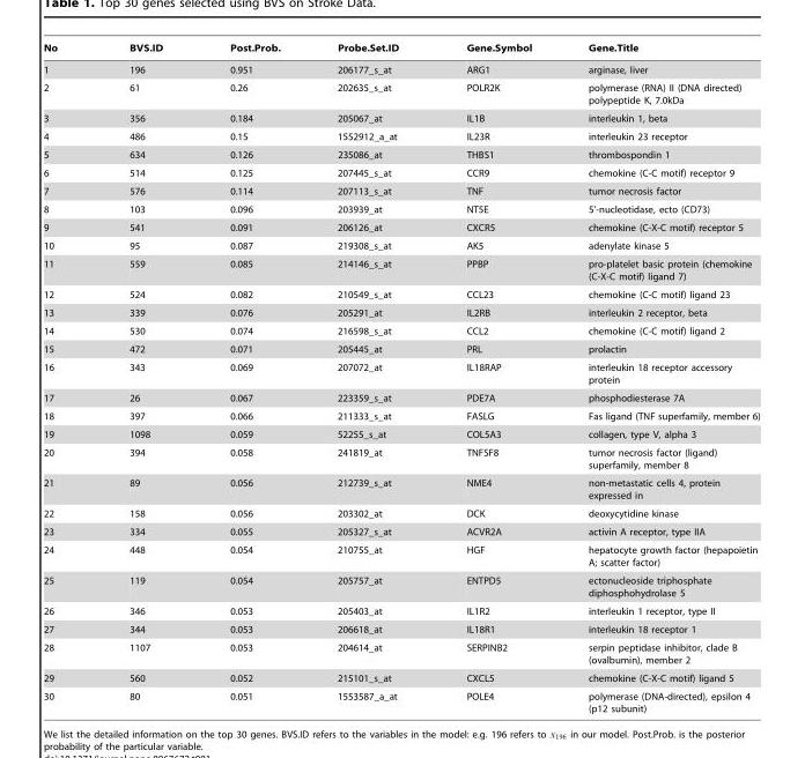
<table><thead><tr><td>No</td><td>BVS.ID</td><td>Post.Prob.</td><td>Probe.Set.ID</td><td>Gene.Symbol</td><td>Gene.Title</td></tr></thead><tbody><tr><td>1</td><td>196</td><td>0.951</td><td>206177_s_at</td><td>ARG1</td><td>arginase, liver</td></tr><tr><td>2</td><td>61</td><td>0.26</td><td>202635_s_at</td><td>POLR2K</td><td>polymerase (RNA) II (DNA directed) polypeptide K, 7.0kDa</td></tr><tr><td>3</td><td>356</td><td>0.184</td><td>205067_at</td><td>IL1B</td><td>interleukin 1, beta</td></tr><tr><td>4</td><td>486</td><td>0.15</td><td>1552912_a_at</td><td>IL23R</td><td>interleukin 23 receptor</td></tr><tr><td>5</td><td>634</td><td>0.126</td><td>235086_at</td><td>THBS1</td><td>thrombospondin 1</td></tr><tr><td>6</td><td>514</td><td>0.125</td><td>207445_s_at</td><td>CCR9</td><td>chemokine (C-C motif) receptor 9</td></tr><tr><td>7</td><td>576</td><td>0.114</td><td>207113_s_at</td><td>TNF</td><td>tumor necrosis factor</td></tr><tr><td>8</td><td>103</td><td>0.096</td><td>203939_at</td><td>NT5E</td><td>5’-nucleotidase, ecto (CD73)</td></tr><tr><td>9</td><td>541</td><td>0.091</td><td>206126_at</td><td>CXCR5</td><td>chemokine (C-X-C motif) receptor 5</td></tr><tr><td>10</td><td>95</td><td>0.087</td><td>219308_s_at</td><td>AK5</td><td>adenylate kinase 5</td></tr><tr><td>11</td><td>559</td><td>0.085</td><td>214146_s_at</td><td>PPBP</td><td>pro-platelet basic protein (chemokine (C-X-C motif) ligand 7)</td></tr><tr><td>12</td><td>524</td><td>0.082</td><td>210549_s_at</td><td>CCL23</td><td>chemokine (C-C motif) ligand 23</td></tr><tr><td>13</td><td>339</td><td>0.076</td><td>205291_at</td><td>IL2RB</td><td>interleukin 2 receptor, beta</td></tr><tr><td>14</td><td>530</td><td>0.074</td><td>216598_s_at</td><td>CCL2</td><td>chemokine (C-C motif) ligand 2</td></tr><tr><td>15</td><td>472</td><td>0.071</td><td>205445_at</td><td>PRL</td><td>prolactin</td></tr><tr><td>16</td><td>343</td><td>0.069</td><td>207072_at</td><td>IL18RAP</td><td>interleukin 18 receptor accessory protein</td></tr><tr><td>17</td><td>26</td><td>0.067</td><td>223359_s_at</td><td>PDE7A</td><td>phosphodiesterase 7A</td></tr><tr><td>18</td><td>397</td><td>0.066</td><td>211333_s_at</td><td>FASLG</td><td>Fas ligand (TNF superfamily, member 6)</td></tr><tr><td>19</td><td>1098</td><td>0.059</td><td>52255_s_at</td><td>COL5A3</td><td>collagen, type V, alpha 3</td></tr><tr><td>20</td><td>394</td><td>0.058</td><td>241819_at</td><td>TNFSF8</td><td>tumor necrosis factor (ligand) superfamily, member 8</td></tr><tr><td>21</td><td>89</td><td>0.056</td><td>212739_s_at</td><td>NME4</td><td>non-metastatic cells 4, protein expressed in</td></tr><tr><td>22</td><td>158</td><td>0.056</td><td>203302_at</td><td>DCK</td><td>deoxycytidine kinase</td></tr><tr><td>23</td><td>334</td><td>0.055</td><td>205327_s_at</td><td>ACVR2A</td><td>activin A receptor, type IIA</td></tr><tr><td>24</td><td>448</td><td>0.054</td><td>210755_at</td><td>HGF</td><td>hepatocyte growth factor (hepapoietin A; scatter factor)</td></tr><tr><td>25</td><td>119</td><td>0.054</td><td>205757_at</td><td>ENTPD5</td><td>ectonucleoside triphosphate diphosphohydrolase 5</td></tr><tr><td>26</td><td>346</td><td>0.053</td><td>205403_at</td><td>IL1R2</td><td>interleukin 1 receptor, type II</td></tr><tr><td>27</td><td>344</td><td>0.053</td><td>206618_at</td><td>IL18R1</td><td>interleukin 18 receptor 1</td></tr><tr><td>28</td><td>1107</td><td>0.053</td><td>204614_at</td><td>SERPINB2</td><td>serpin peptidase inhibitor, clade B (ovalbumin), member 2</td></tr><tr><td>29</td><td>560</td><td>0.052</td><td>215101_s_at</td><td>CXCL5</td><td>chemokine (C-X-C motif) ligand 5</td></tr><tr><td>30</td><td>80</td><td>0.051</td><td>1553587_a_at</td><td>POLE4</td><td>polymerase (DNA-directed), epsilon 4 (p12 subunit)</td></tr></tbody></table>